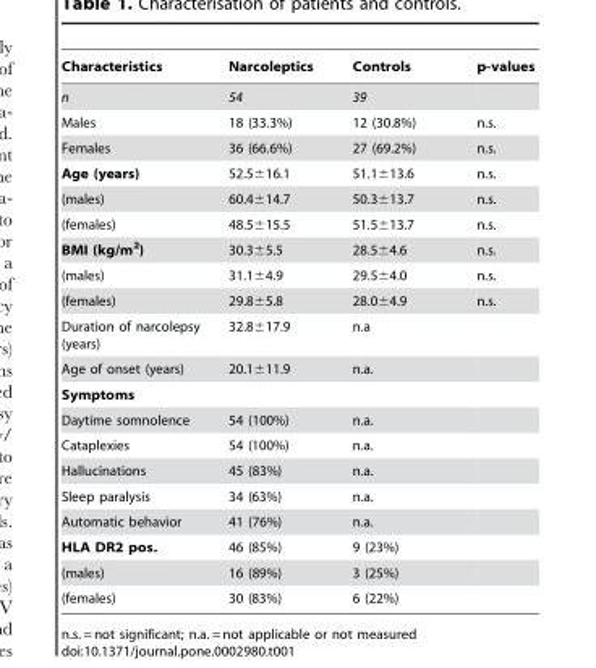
<table><thead><tr><td>Characteristics</td><td>Narcoleptics</td><td>Controls</td><td>p-values</td></tr></thead><tbody><tr><td>n</td><td>54</td><td>39</td><td></td></tr><tr><td>Males</td><td>18 (33.3%)</td><td>12 (30.8%)</td><td>n.s.</td></tr><tr><td>Females</td><td>36 (66.6%)</td><td>27 (69.2%)</td><td>n.s.</td></tr><tr><td>Age (years)</td><td>52.5±16.1</td><td>51.1±13.6</td><td>n.s.</td></tr><tr><td>(males)</td><td>60.4±14.7</td><td>50.3±13.7</td><td>n.s.</td></tr><tr><td>(females)</td><td>48.5±15.5</td><td>51.5±13.7</td><td>n.s.</td></tr><tr><td>BMI (kg/m<sup>2</sup>)</td><td>30.3±5.5</td><td>28.5±4.6</td><td>n.s.</td></tr><tr><td>(males)</td><td>31.1±4.9</td><td>29.5±4.0</td><td>n.s.</td></tr><tr><td>(females)</td><td>29.8±5.8</td><td>28.0±4.9</td><td>n.s.</td></tr><tr><td>Duration of narcolepsy (years)</td><td>32.8±17.9</td><td>n.a</td><td></td></tr><tr><td>Age of onset (years)</td><td>20.1±11.9</td><td>n.a.</td><td></td></tr><tr><td colspan="4">Symptoms</td></tr><tr><td>Daytime somnolence</td><td>54 (100%)</td><td>n.a.</td><td></td></tr><tr><td>Cataplexies</td><td>54 (100%)</td><td>n.a.</td><td></td></tr><tr><td>Hallucinations</td><td>45 (83%)</td><td>n.a.</td><td></td></tr><tr><td>Sleep paralysis</td><td>34 (63%)</td><td>n.a.</td><td></td></tr><tr><td>Automatic behavior</td><td>41 (76%)</td><td>n.a.</td><td></td></tr><tr><td>HLA DR2 pos.</td><td>46 (85%)</td><td>9 (23%)</td><td></td></tr><tr><td>(males)</td><td>16 (89%)</td><td>3 (25%)</td><td></td></tr><tr><td>(females)</td><td>30 (83%)</td><td>6 (22%)</td><td></td></tr></tbody></table>